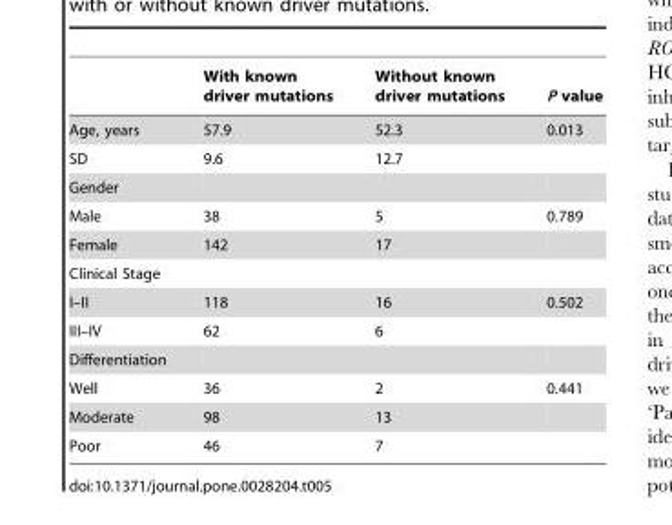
<table><thead><tr><td></td><td>With known driver mutations</td><td>Without known driver mutations</td><td>P value</td></tr></thead><tbody><tr><td>Age, years</td><td>57.9</td><td>52.3</td><td>0.013</td></tr><tr><td>SD</td><td>9.6</td><td>12.7</td><td></td></tr><tr><td colspan="4">Gender</td></tr><tr><td>Male</td><td>38</td><td>5</td><td>0.789</td></tr><tr><td>Female</td><td>142</td><td>17</td><td></td></tr><tr><td colspan="4">Clinical Stage</td></tr><tr><td>I–II</td><td>118</td><td>16</td><td>0.502</td></tr><tr><td>III–IV</td><td>62</td><td>6</td><td></td></tr><tr><td colspan="4">Differentiation</td></tr><tr><td>Well</td><td>36</td><td>2</td><td>0.441</td></tr><tr><td>Moderate</td><td>98</td><td>13</td><td></td></tr><tr><td>Poor</td><td>46</td><td>7</td><td></td></tr></tbody></table>